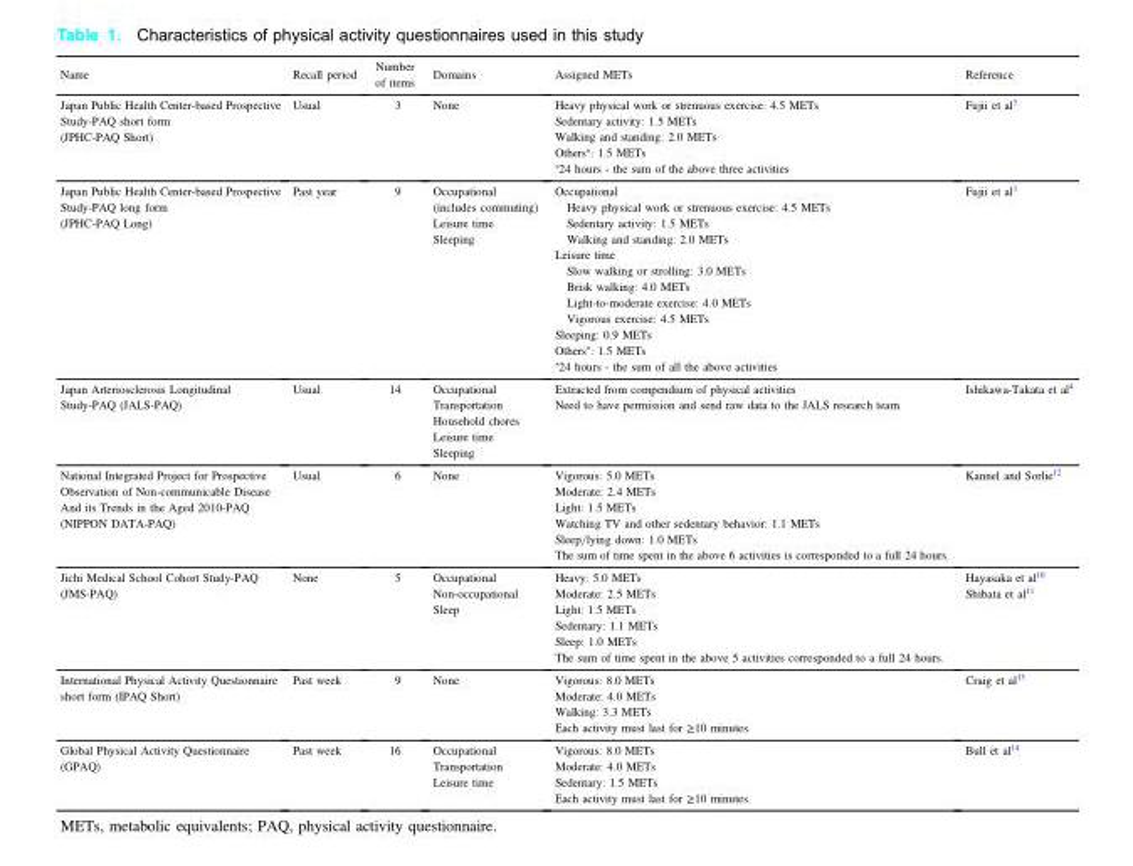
<table><thead><tr><td>Name</td><td>Recall period</td><td>Number of items</td><td>Domains</td><td>Assigned METs</td><td>Reference</td></tr></thead><tbody><tr><td>Japan Public Health Center-based Prospective Study-PAQ short form (JPHC-PAQ Short)</td><td>Usual</td><td>3</td><td>None</td><td>Heavy physical work or strenuous exercise: 4.5 METs Sedentary activity: 1.5 METs Walking and standing: 2.0 METs Others+: 1.5 METs +24 hours - the sum of the above three activities</td><td>Fujii et al<sup>3</sup></td></tr><tr><td>Japan Public Health Center-based Prospective Study-PAQ long form (JPHC-PAQ Long)</td><td>Past year</td><td>9</td><td>Occupational (includes commuting) Leisure time Sleeping</td><td>Occupational Heavy physical work or strenuous exercise: 4.5 METs Sedentary activity: 1.5 METs Walking and standing: 2.0 METs Leisure time Slow walking or strolling: 3.0 METs Brisk walking: 4.0 METs Light-to-moderate exercise: 4.0 METs Vigorous exercise: 4.5 METs Sleeping: 0.9 METs Others+: 1.5 METs +24 hours - the sum of all the above activities</td><td>Fujii et al<sup>3</sup></td></tr><tr><td>Japan Arteriosclerosis Longitudinal Study-PAQ (JALS-PAQ)</td><td>Usual</td><td>14</td><td>Occupational Transportation Household chores Leisure time Sleeping</td><td>Extracted from compendium of physical activities Need to have permission and send raw data to the JALS research team.</td><td>Ishikawa-Takata et al<sup>4</sup></td></tr><tr><td>National Integrated Project for Prospective Observation of Non-communicable Disease And its Trends in the Aged 2010-PAQ (NIPPON DATA-PAQ)</td><td>Usual</td><td>6</td><td>None</td><td>Vigorous: 5.0 METs Moderate: 2.4 METs Light: 1.5 METs Watching TV and other sedentary behavior: 1.1 METs Sleep=lying down: 1.0 METs The sum of time spent in the above 6 activities is corresponded to a full 24 hours.</td><td>Kannel and Sorlie<sup>12</sup></td></tr><tr><td>Jichi Medical School Cohort Study-PAQ (JMS-PAQ)</td><td>None</td><td>5</td><td>Occupational Non-occupational Sleep</td><td>Heavy: 5.0 METs Moderate: 2.5 METs Light: 1.5 METs Sedentary: 1.1 METs Sleep: 1.0 METs The sum of time spent in the above 5 activities corresponded to a full 24 hours.</td><td>Hayasaka et al<sup>10</sup> Shibata et al<sup>11</sup></td></tr><tr><td>International Physical Activity Questionnaire short form (IPAQ Short)</td><td>Past week</td><td>9</td><td>None</td><td>Vigorous: 8.0 METs Moderate: 4.0 METs Walking: 3.3 METs Each activity must last for ≥10 minutes.</td><td>Craig et al<sup>13</sup></td></tr><tr><td>Global Physical Activity Questionnaire (GPAQ)</td><td>Past week</td><td>16</td><td>Occupational Transportation Leisure time</td><td>Vigorous: 8.0 METs Moderate: 4.0 METs Sedentary: 1.5 METs Each activity must last for ≥10 minutes.</td><td>Bull et al<sup>14</sup></td></tr></tbody></table>